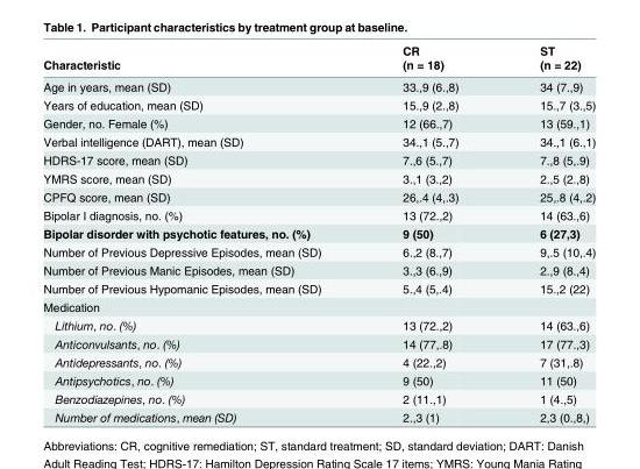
<table><thead><tr><td rowspan="2">Characteristic</td><td rowspan="2">CR (n = 18)</td><td rowspan="2">ST (n = 22)</td></tr><tr></tr></thead><tbody><tr><td>Age in years, mean (SD)</td><td>33.,9 (6.,8)</td><td>34 (7.,9)</td></tr><tr><td>Years of education, mean (SD)</td><td>15.,9 (2.,8)</td><td>15.,7 (3.,5)</td></tr><tr><td>Gender, no. Female (%)</td><td>12 (66.,7)</td><td>13 (59.,1)</td></tr><tr><td>Verbal intelligence (DART), mean (SD)</td><td>34.,1 (5.,7)</td><td>34.,1 (6.,1)</td></tr><tr><td>HDRS-17 score, mean (SD)</td><td>7.,6 (5.,7)</td><td>7.,8 (5,.9)</td></tr><tr><td>YMRS score, mean (SD)</td><td>3.,1 (3.,2)</td><td>2.,5 (2.,8)</td></tr><tr><td>CPFQ score, mean (SD)</td><td>26,.4 (4,.3)</td><td>25,.8 (4,.2)</td></tr><tr><td>Bipolar I diagnosis, no. (%)</td><td>13 (72.,2)</td><td>14 (63.,6)</td></tr><tr><td>Bipolar disorder with psychotic features, no. (%)</td><td>9 (50)</td><td>6 (27,3)</td></tr><tr><td>Number of Previous Depressive Episodes, mean (SD)</td><td>6.,2 (8.,7)</td><td>9,.5 (10,.4)</td></tr><tr><td>Number of Previous Manic Episodes, mean (SD)</td><td>3.,3 (6.,9)</td><td>2.,9 (8.,4)</td></tr><tr><td>Number of Previous Hypomanic Episodes, mean (SD)</td><td>5.,4 (5,.4)</td><td>15.,2 (22)</td></tr><tr><td colspan="3">Medication</td></tr><tr><td>Lithium, no. (%)</td><td>13 (72.,2)</td><td>14 (63.,6)</td></tr><tr><td>Anticonvulsants, no. (%)</td><td>14 (77,.8)</td><td>17 (77.,3)</td></tr><tr><td>Antidepressants, no. (%)</td><td>4 (22.,2)</td><td>7 (31,.8)</td></tr><tr><td>Antipsychotics, no. (%)</td><td>9 (50)</td><td>11 (50)</td></tr><tr><td>Benzodiazepines, no. (%)</td><td>2 (11.,1)</td><td>1 (4.,5)</td></tr><tr><td>Number of medications, mean (SD)</td><td>2.,3 (1)</td><td>2,3 (0.,8,)</td></tr></tbody></table>